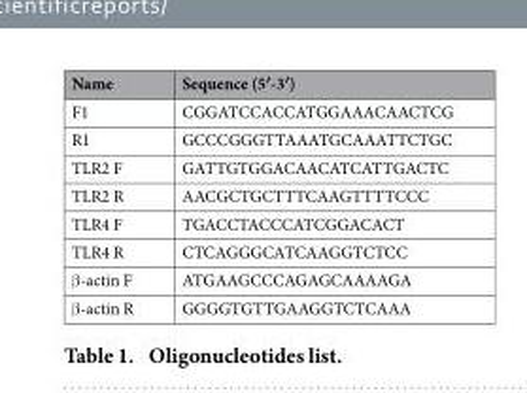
<table><thead><tr><td>Name</td><td>Sequence (5′-3′)</td></tr></thead><tbody><tr><td>F1</td><td>CGGATCCACCATGGAAACAACTCG</td></tr><tr><td>R1</td><td>GCCCGGGTTAAATGCAAATTCTGC</td></tr><tr><td>TLR2 F</td><td>GATTGTGGACAACATCATTGACTC</td></tr><tr><td>TLR2 R</td><td>AACGCTGCTTTCAAGTTTTCCC</td></tr><tr><td>TLR4 F</td><td>TGACCTACCCATCGGACACT</td></tr><tr><td>TLR4 R</td><td>CTCAGGGCATCAAGGTCTCC</td></tr><tr><td>β -actin F</td><td>ATGAAGCCCAGAGCAAAAGA</td></tr><tr><td>β -actin R</td><td>GGGGTGTTGAAGGTCTCAAA</td></tr></tbody></table>